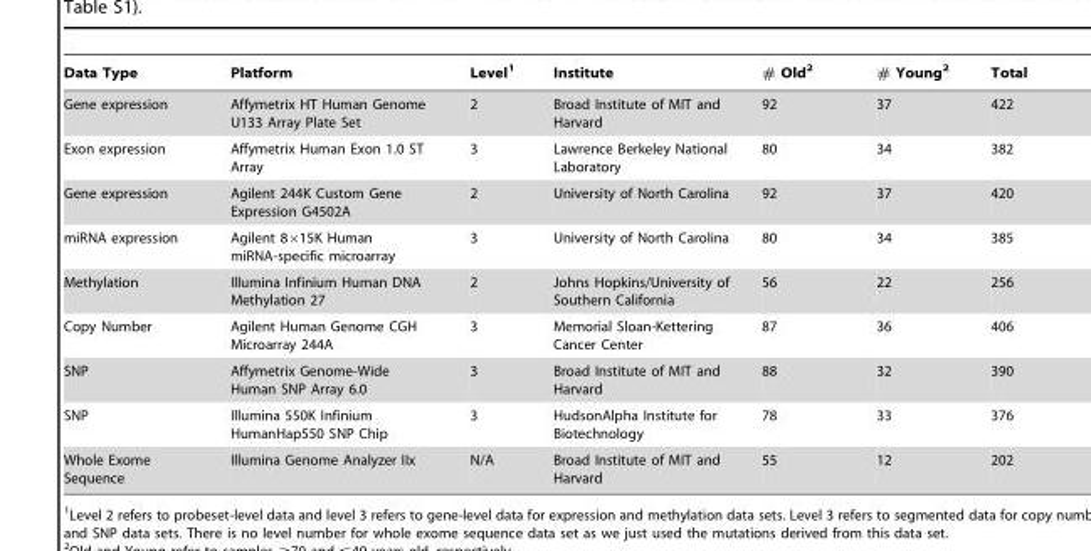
<table><thead><tr><td>Data Type</td><td>Platform</td><td>Level<sup>1</sup></td><td>Institute</td><td># Old<sup>2</sup></td><td># Young<sup>2</sup></td><td>Total</td></tr></thead><tbody><tr><td>Gene expression</td><td>Affymetrix HT Human Genome U133 Array Plate Set</td><td>2</td><td>Broad Institute of MIT and Harvard</td><td>92</td><td>37</td><td>422</td></tr><tr><td>Exon expression</td><td>Affymetrix Human Exon 1.0 ST Array</td><td>3</td><td>Lawrence Berkeley National Laboratory</td><td>80</td><td>34</td><td>382</td></tr><tr><td>Gene expression</td><td>Agilent 244K Custom Gene Expression G4502A</td><td>2</td><td>University of North Carolina</td><td>92</td><td>37</td><td>420</td></tr><tr><td>miRNA expression</td><td>Agilent 8×15K Human miRNA-specific microarray</td><td>3</td><td>University of North Carolina</td><td>80</td><td>34</td><td>385</td></tr><tr><td>Methylation</td><td>Illumina Infinium Human DNA Methylation 27</td><td>2</td><td>Johns Hopkins/University of Southern California</td><td>56</td><td>22</td><td>256</td></tr><tr><td>Copy Number</td><td>Agilent Human Genome CGH Microarray 244A</td><td>3</td><td>Memorial Sloan-Kettering Cancer Center</td><td>87</td><td>36</td><td>406</td></tr><tr><td>SNP</td><td>Affymetrix Genome-Wide Human SNP Array 6.0</td><td>3</td><td>Broad Institute of MIT and Harvard</td><td>88</td><td>32</td><td>390</td></tr><tr><td>SNP</td><td>Illumina 550K Infinium HumanHap550 SNP Chip</td><td>3</td><td>HudsonAlpha Institute for Biotechnology</td><td>78</td><td>33</td><td>376</td></tr><tr><td>Whole Exome Sequence</td><td>Illumina Genome Analyzer IIx</td><td>N/A</td><td>Broad Institute of MIT and Harvard</td><td>55</td><td>12</td><td>202</td></tr></tbody></table>